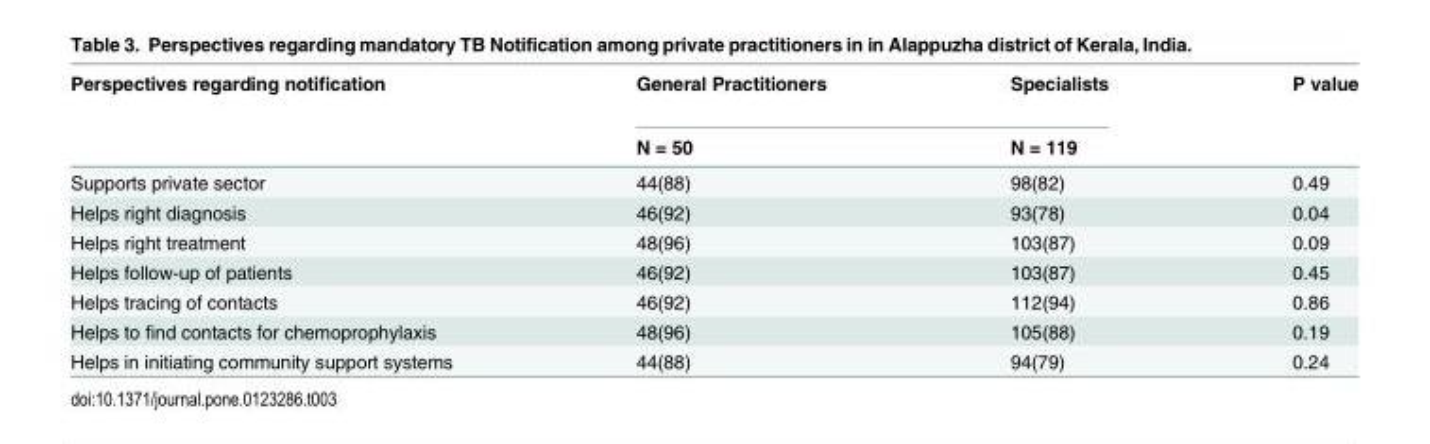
<table><thead><tr><td rowspan="2">Perspectives regarding notification</td><td rowspan="2">General Practitioners N = 50</td><td rowspan="2">Specialists N = 119</td><td rowspan="2">P value</td></tr><tr></tr></thead><tbody><tr><td>Supports private sector</td><td>44(88)</td><td>98(82)</td><td>0.49</td></tr><tr><td>Helps right diagnosis</td><td>46(92)</td><td>93(78)</td><td>0.04</td></tr><tr><td>Helps right treatment</td><td>48(96)</td><td>103(87)</td><td>0.09</td></tr><tr><td>Helps follow-up of patients</td><td>46(92)</td><td>103(87)</td><td>0.45</td></tr><tr><td>Helps tracing of contacts</td><td>46(92)</td><td>112(94)</td><td>0.86</td></tr><tr><td>Helps to find contacts for chemoprophylaxis</td><td>48(96)</td><td>105(88)</td><td>0.19</td></tr><tr><td>Helps in initiating community support systems</td><td>44(88)</td><td>94(79)</td><td>0.24</td></tr></tbody></table>